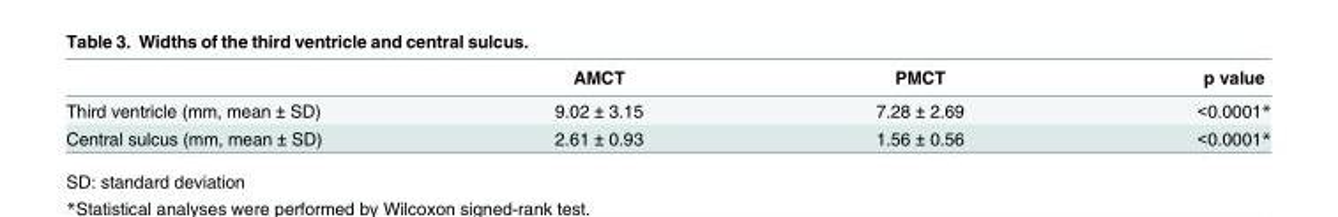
<table><thead><tr><td></td><td>AMCT</td><td>PMCT</td><td>p value</td></tr></thead><tbody><tr><td>Third ventricle (mm, mean ± SD)</td><td>9.02 ± 3.15</td><td>7.28 ± 2.69</td><td>&lt;0.0001*</td></tr><tr><td>Central sulcus (mm, mean ± SD)</td><td>2.61 ± 0.93</td><td>1.56 ± 0.56</td><td>&lt;0.0001*</td></tr></tbody></table>